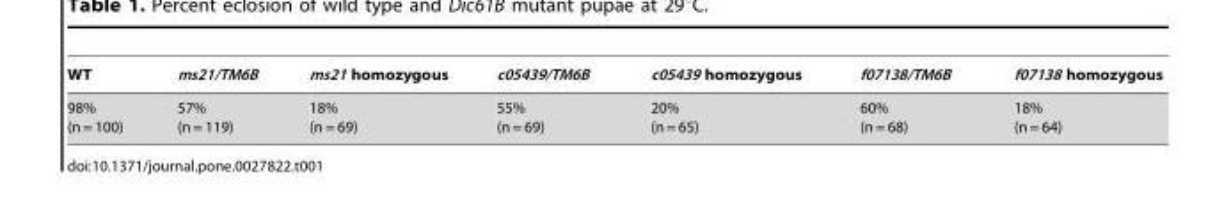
<table><thead><tr><td>WT</td><td>ms21/TM6B</td><td>ms21 homozygous</td><td>c05439/TM6B</td><td>c05439 homozygous</td><td>f07138/TM6B</td><td>f07138 homozygous</td></tr></thead><tbody><tr><td>98% (n = 100)</td><td>57% (n = 119)</td><td>18% (n = 69)</td><td>55% (n = 69)</td><td>20% (n = 65)</td><td>60% (n = 68)</td><td>18% (n = 64)</td></tr></tbody></table>